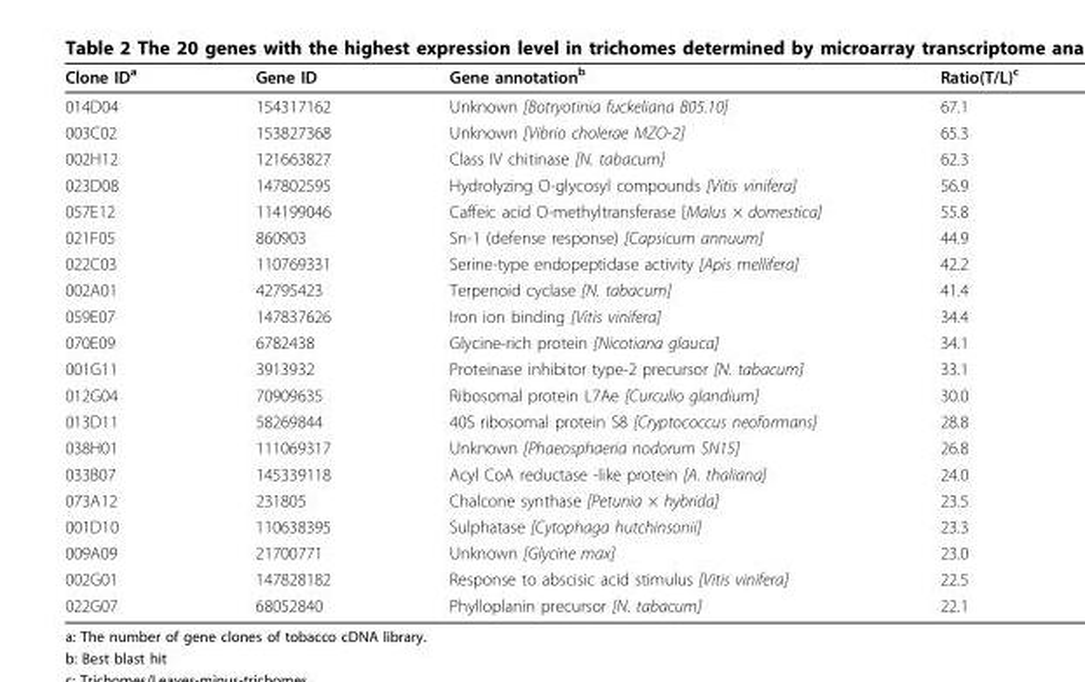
<table><thead><tr><td>Clone ID<sup>a</sup></td><td>Gene ID</td><td>Gene annotation<sup>b</sup></td><td>Ratio(T/L)<sup>c</sup></td></tr></thead><tbody><tr><td>014D04</td><td>154317162</td><td>Unknown [Botryotinia fuckeliana B05.10]</td><td>67.1</td></tr><tr><td>003C02</td><td>153827368</td><td>Unknown [Vibrio cholerae MZO-2]</td><td>65.3</td></tr><tr><td>002H12</td><td>121663827</td><td>Class IV chitinase [N. tabacum]</td><td>62.3</td></tr><tr><td>023D08</td><td>147802595</td><td>Hydrolyzing O-glycosyl compounds [Vitis vinifera]</td><td>56.9</td></tr><tr><td>057E12</td><td>114199046</td><td>Caffeic acid O-methyltransferase [Malus × domestica]</td><td>55.8</td></tr><tr><td>021F05</td><td>860903</td><td>Sn-1 (defense response) [Capsicum annuum]</td><td>44.9</td></tr><tr><td>022C03</td><td>110769331</td><td>Serine-type endopeptidase activity [Apis mellifera]</td><td>42.2</td></tr><tr><td>002A01</td><td>42795423</td><td>Terpenoid cyclase [N. tabacum]</td><td>41.4</td></tr><tr><td>059E07</td><td>147837626</td><td>Iron ion binding [Vitis vinifera]</td><td>34.4</td></tr><tr><td>070E09</td><td>6782438</td><td>Glycine-rich protein [Nicotiana glauca]</td><td>34.1</td></tr><tr><td>001G11</td><td>3913932</td><td>Proteinase inhibitor type-2 precursor [N. tabacum]</td><td>33.1</td></tr><tr><td>012G04</td><td>70909635</td><td>Ribosomal protein L7Ae [Curculio glandium]</td><td>30.0</td></tr><tr><td>013D11</td><td>58269844</td><td>40S ribosomal protein S8 [Cryptococcus neoformans]</td><td>28.8</td></tr><tr><td>038H01</td><td>111069317</td><td>Unknown [Phaeosphaeria nodorum SN15]</td><td>26.8</td></tr><tr><td>033B07</td><td>145339118</td><td>Acyl CoA reductase -like protein [A. thaliana]</td><td>24.0</td></tr><tr><td>073A12</td><td>231805</td><td>Chalcone synthase [Petunia × hybrida]</td><td>23.5</td></tr><tr><td>001D10</td><td>110638395</td><td>Sulphatase [Cytophaga hutchinsonii]</td><td>23.3</td></tr><tr><td>009A09</td><td>21700771</td><td>Unknown [Glycine max]</td><td>23.0</td></tr><tr><td>002G01</td><td>147828182</td><td>Response to abscisic acid stimulus [Vitis vinifera]</td><td>22.5</td></tr><tr><td>022G07</td><td>68052840</td><td>Phylloplanin precursor [N. tabacum]</td><td>22.1</td></tr></tbody></table>